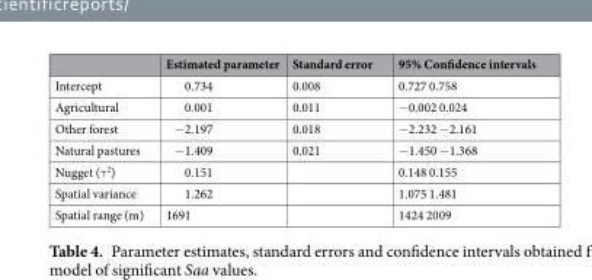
<table><thead><tr><td></td><td>Estimated parameter</td><td>Standard error</td><td>95% Confidence intervals</td></tr></thead><tbody><tr><td>Intercept</td><td>0.734</td><td>0.008</td><td>0.727 0.758</td></tr><tr><td>Agricultural</td><td>0.001</td><td>0.011</td><td>−0.002 0.024</td></tr><tr><td>Other forest</td><td>−2.197</td><td>0.018</td><td>−2.232 −2.161</td></tr><tr><td>Natural pastures</td><td>−1.409</td><td>0.021</td><td>−1.450 −1.368</td></tr><tr><td>Nugget (τ<sup>2</sup>)</td><td>0.151</td><td></td><td>0.148 0.155</td></tr><tr><td>Spatial variance</td><td>1.262</td><td></td><td>1.075 1.481</td></tr><tr><td>Spatial range (m)</td><td>1691</td><td></td><td>1424 2009</td></tr></tbody></table>